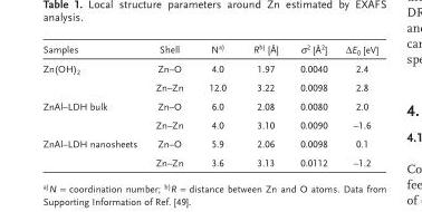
<table><thead><tr><td>Samples</td><td>Shell</td><td>N a)</td><td>R b) [Å]</td><td>σ <sup>2</sup> [Å <sup>2</sup> ]</td><td>Δ E <sub>0</sub> [eV]</td></tr></thead><tbody><tr><td rowspan="2">Zn(OH) <sub>2</sub></td><td>Zn–O</td><td>4.0</td><td>1.97</td><td>0.0040</td><td>2.4</td></tr><tr><td>Zn–Zn</td><td>12.0</td><td>3.22</td><td>0.0098</td><td>2.8</td></tr><tr><td rowspan="2">ZnAl–LDH bulk</td><td>Zn–O</td><td>6.0</td><td>2.08</td><td>0.0080</td><td>2.0</td></tr><tr><td>Zn–Zn</td><td>4.0</td><td>3.10</td><td>0.0090</td><td>–1.6</td></tr><tr><td rowspan="2">ZnAl–LDH nanosheets</td><td>Zn–O</td><td>5.9</td><td>2.06</td><td>0.0098</td><td>0.1</td></tr><tr><td>Zn–Zn</td><td>3.6</td><td>3.13</td><td>0.0112</td><td>–1.2</td></tr></tbody></table>